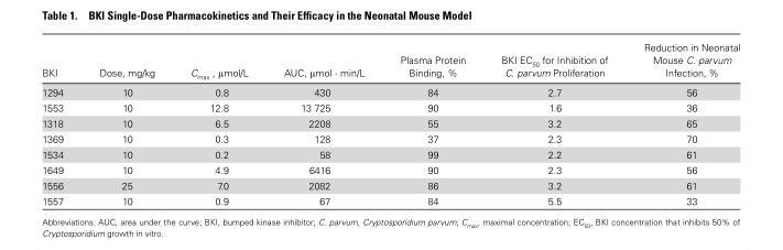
<table><tbody><tr><td>BKI</td><td>Dose, mg/kg</td><td>C<sub>max</sub> , μmol/L</td><td>AUC, μmol · min/L</td><td>Plasma Protein Binding, %</td><td>BKI EC<sub>50</sub> for Inhibition of C. parvum Proliferation</td><td>Reduction in Neonatal Mouse C. parvum Infection, %</td></tr><tr><td>1294</td><td>10</td><td>0.8</td><td>430</td><td>84</td><td>2.7</td><td>56</td></tr><tr><td>1553</td><td>10</td><td>12.8</td><td>13 725</td><td>90</td><td>1.6</td><td>36</td></tr><tr><td>1318</td><td>10</td><td>6.5</td><td>2208</td><td>55</td><td>3.2</td><td>65</td></tr><tr><td>1369</td><td>10</td><td>0.3</td><td>128</td><td>37</td><td>2.3</td><td>70</td></tr><tr><td>1534</td><td>10</td><td>0.2</td><td>58</td><td>99</td><td>2.2</td><td>61</td></tr><tr><td>1649</td><td>10</td><td>4.9</td><td>6416</td><td>90</td><td>2.3</td><td>56</td></tr><tr><td>1556</td><td>25</td><td>7.0</td><td>2082</td><td>86</td><td>3.2</td><td>61</td></tr><tr><td>1557</td><td>10</td><td>0.9</td><td>67</td><td>84</td><td>5.5</td><td>33</td></tr></tbody></table>